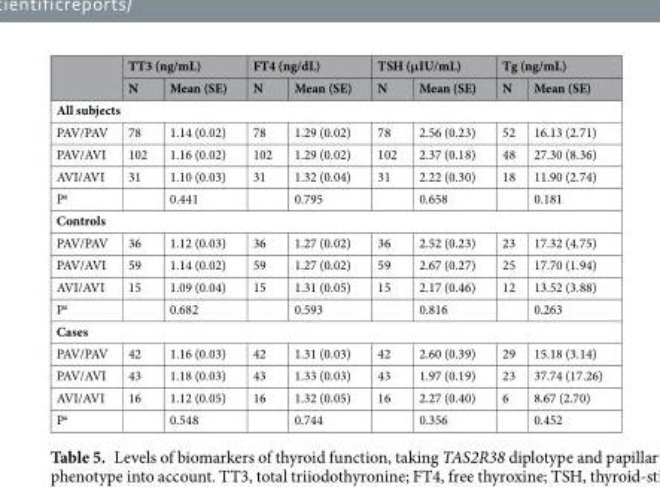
<table><thead><tr><td rowspan="2"></td><td colspan="2">TT3 (ng/mL)</td><td colspan="2">FT4 (ng/dL)</td><td colspan="2">TSH (μIU/mL)</td><td colspan="2">Tg (ng/mL)</td></tr><tr><td>N</td><td>Mean (SE)</td><td>N</td><td>Mean (SE)</td><td>N</td><td>Mean (SE)</td><td>N</td><td>Mean (SE)</td></tr></thead><tbody><tr><td colspan="9">All subjects</td></tr><tr><td>PAV/PAV</td><td>78</td><td>1.14 (0.02)</td><td>78</td><td>1.29 (0.02)</td><td>78</td><td>2.56 (0.23)</td><td>52</td><td>16.13 (2.71)</td></tr><tr><td>PAV/AVI</td><td>102</td><td>1.16 (0.02)</td><td>102</td><td>1.29 (0.02)</td><td>102</td><td>2.37 (0.18)</td><td>48</td><td>27.30 (8.36)</td></tr><tr><td>AVI/AVI</td><td>31</td><td>1.10 (0.03)</td><td>31</td><td>1.32 (0.04)</td><td>31</td><td>2.22 (0.30)</td><td>18</td><td>11.90 (2.74)</td></tr><tr><td>P<sup>a</sup></td><td></td><td>0.441</td><td></td><td>0.795</td><td></td><td>0.658</td><td></td><td>0.181</td></tr><tr><td colspan="9">Controls</td></tr><tr><td>PAV/PAV</td><td>36</td><td>1.12 (0.03)</td><td>36</td><td>1.27 (0.02)</td><td>36</td><td>2.52 (0.23)</td><td>23</td><td>17.32 (4.75)</td></tr><tr><td>PAV/AVI</td><td>59</td><td>1.14 (0.02)</td><td>59</td><td>1.27 (0.02)</td><td>59</td><td>2.67 (0.27)</td><td>25</td><td>17.70 (1.94)</td></tr><tr><td>AVI/AVI</td><td>15</td><td>1.09 (0.04)</td><td>15</td><td>1.31 (0.05)</td><td>15</td><td>2.17 (0.46)</td><td>12</td><td>13.52 (3.88)</td></tr><tr><td>P<sup>a</sup></td><td></td><td>0.682</td><td></td><td>0.593</td><td></td><td>0.816</td><td></td><td>0.263</td></tr><tr><td colspan="9">Cases</td></tr><tr><td>PAV/PAV</td><td>42</td><td>1.16 (0.03)</td><td>42</td><td>1.31 (0.03)</td><td>42</td><td>2.60 (0.39)</td><td>29</td><td>15.18 (3.14)</td></tr><tr><td>PAV/AVI</td><td>43</td><td>1.18 (0.03)</td><td>43</td><td>1.33 (0.03)</td><td>43</td><td>1.97 (0.19)</td><td>23</td><td>37.74 (17.26)</td></tr><tr><td>AVI/AVI</td><td>16</td><td>1.12 (0.05)</td><td>16</td><td>1.32 (0.05)</td><td>16</td><td>2.27 (0.40)</td><td>6</td><td>8.67 (2.70)</td></tr><tr><td>P<sup>a</sup></td><td></td><td>0.548</td><td></td><td>0.744</td><td></td><td>0.356</td><td></td><td>0.452</td></tr></tbody></table>